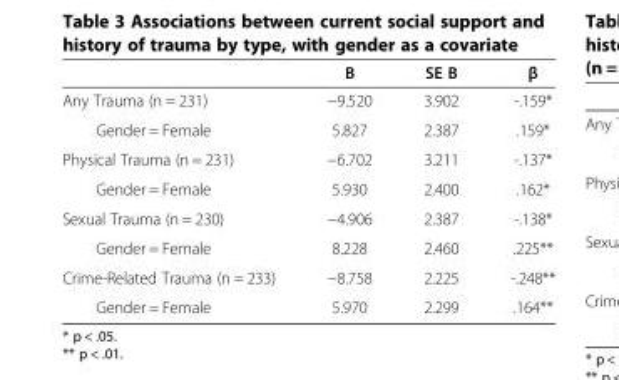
<table><thead><tr><td></td><td>B</td><td>SE B</td><td>β</td></tr></thead><tbody><tr><td>Any Trauma (n = 231)</td><td>−9.520</td><td>3.902</td><td>-.159*</td></tr><tr><td>Gender = Female</td><td>5.827</td><td>2.387</td><td>.159*</td></tr><tr><td>Physical Trauma (n = 231)</td><td>−6.702</td><td>3.211</td><td>-.137*</td></tr><tr><td>Gender = Female</td><td>5.930</td><td>2.400</td><td>.162*</td></tr><tr><td>Sexual Trauma (n = 230)</td><td>−4.906</td><td>2.387</td><td>-.138*</td></tr><tr><td>Gender = Female</td><td>8.228</td><td>2.460</td><td>.225**</td></tr><tr><td>Crime-Related Trauma (n = 233)</td><td>−8.758</td><td>2.225</td><td>-.248**</td></tr><tr><td>Gender = Female</td><td>5.970</td><td>2.299</td><td>.164**</td></tr></tbody></table>